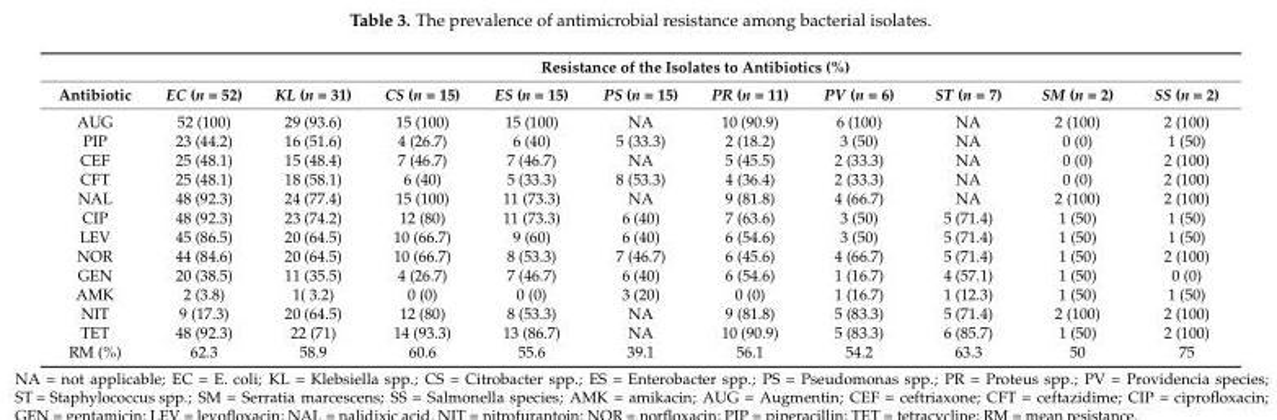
<table><thead><tr><td rowspan="2">Antibiotic</td><td colspan="10">Resistance of the Isolates to Antibiotics (%)</td></tr><tr><td>EC (n = 52)</td><td>KL (n = 31)</td><td>CS (n = 15)</td><td>ES (n = 15)</td><td>PS (n = 15)</td><td>PR (n = 11)</td><td>PV (n = 6)</td><td>ST (n = 7)</td><td>SM (n = 2)</td><td>SS (n = 2)</td></tr></thead><tbody><tr><td>AUG</td><td>52 (100)</td><td>29 (93.6)</td><td>15 (100)</td><td>15 (100)</td><td>NA</td><td>10 (90.9)</td><td>6 (100)</td><td>NA</td><td>2 (100)</td><td>2 (100)</td></tr><tr><td>PIP</td><td>23 (44.2)</td><td>16 (51.6)</td><td>4 (26.7)</td><td>6 (40)</td><td>5 (33.3)</td><td>2 (18.2)</td><td>3 (50)</td><td>NA</td><td>0 (0)</td><td>1 (50)</td></tr><tr><td>CEF</td><td>25 (48.1)</td><td>15 (48.4)</td><td>7 (46.7)</td><td>7 (46.7)</td><td>NA</td><td>5 (45.5)</td><td>2 (33.3)</td><td>NA</td><td>0 (0)</td><td>2 (100)</td></tr><tr><td>CFT</td><td>25 (48.1)</td><td>18 (58.1)</td><td>6 (40)</td><td>5 (33.3)</td><td>8 (53.3)</td><td>4 (36.4)</td><td>2 (33.3)</td><td>NA</td><td>0 (0)</td><td>2 (100)</td></tr><tr><td>NAL</td><td>48 (92.3)</td><td>24 (77.4)</td><td>15 (100)</td><td>11 (73.3)</td><td>NA</td><td>9 (81.8)</td><td>4 (66.7)</td><td>NA</td><td>2 (100)</td><td>2 (100)</td></tr><tr><td>CIP</td><td>48 (92.3)</td><td>23 (74.2)</td><td>12 (80)</td><td>11 (73.3)</td><td>6 (40)</td><td>7 (63.6)</td><td>3 (50)</td><td>5 (71.4)</td><td>1 (50)</td><td>1 (50)</td></tr><tr><td>LEV</td><td>45 (86.5)</td><td>20 (64.5)</td><td>10 (66.7)</td><td>9 (60)</td><td>6 (40)</td><td>6 (54.6)</td><td>3 (50)</td><td>5 (71.4)</td><td>1 (50)</td><td>1 (50)</td></tr><tr><td>NOR</td><td>44 (84.6)</td><td>20 (64.5)</td><td>10 (66.7)</td><td>8 (53.3)</td><td>7 (46.7)</td><td>6 (45.6)</td><td>4 (66.7)</td><td>5 (71.4)</td><td>1 (50)</td><td>2 (100)</td></tr><tr><td>GEN</td><td>20 (38.5)</td><td>11 (35.5)</td><td>4 (26.7)</td><td>7 (46.7)</td><td>6 (40)</td><td>6 (54.6)</td><td>1 (16.7)</td><td>4 (57.1)</td><td>1 (50)</td><td>0 (0)</td></tr><tr><td>AMK</td><td>2 (3.8)</td><td>1( 3.2)</td><td>0 (0)</td><td>0 (0)</td><td>3 (20)</td><td>0 (0)</td><td>1 (16.7)</td><td>1 (12.3)</td><td>1 (50)</td><td>1 (50)</td></tr><tr><td>NIT</td><td>9 (17.3)</td><td>20 (64.5)</td><td>12 (80)</td><td>8 (53.3)</td><td>NA</td><td>9 (81.8)</td><td>5 (83.3)</td><td>5 (71.4)</td><td>2 (100)</td><td>2 (100)</td></tr><tr><td>TET</td><td>48 (92.3)</td><td>22 (71)</td><td>14 (93.3)</td><td>13 (86.7)</td><td>NA</td><td>10 (90.9)</td><td>5 (83.3)</td><td>6 (85.7)</td><td>1 (50)</td><td>2 (100)</td></tr><tr><td>RM (%)</td><td>62.3</td><td>58.9</td><td>60.6</td><td>55.6</td><td>39.1</td><td>56.1</td><td>54.2</td><td>63.3</td><td>50</td><td>75</td></tr></tbody></table>